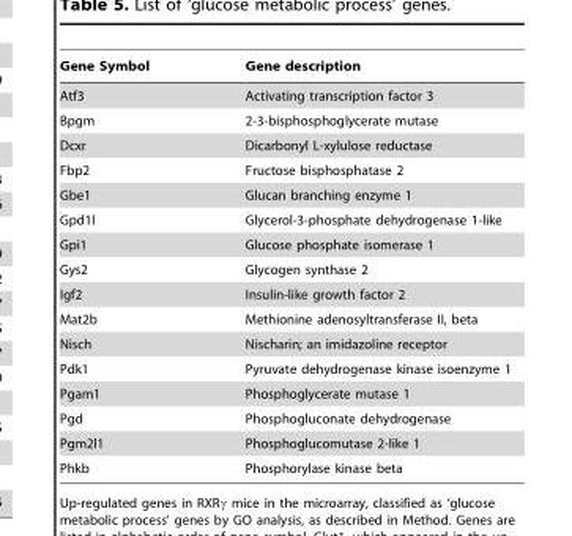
<table><thead><tr><td>Gene Symbol</td><td>Gene description</td></tr></thead><tbody><tr><td>Atf3</td><td>Activating transcription factor 3</td></tr><tr><td>Bpgm</td><td>2-3-bisphosphoglycerate mutase</td></tr><tr><td>Dcxr</td><td>Dicarbonyl L-xylulose reductase</td></tr><tr><td>Fbp2</td><td>Fructose bisphosphatase 2</td></tr><tr><td>Gbe1</td><td>Glucan branching enzyme 1</td></tr><tr><td>Gpd1l</td><td>Glycerol-3-phosphate dehydrogenase 1-like</td></tr><tr><td>Gpi1</td><td>Glucose phosphate isomerase 1</td></tr><tr><td>Gys2</td><td>Glycogen synthase 2</td></tr><tr><td>Igf2</td><td>Insulin-like growth factor 2</td></tr><tr><td>Mat2b</td><td>Methionine adenosyltransferase II, beta</td></tr><tr><td>Nisch</td><td>Nischarin; an imidazoline receptor</td></tr><tr><td>Pdk1</td><td>Pyruvate dehydrogenase kinase isoenzyme 1</td></tr><tr><td>Pgam1</td><td>Phosphoglycerate mutase 1</td></tr><tr><td>Pgd</td><td>Phosphogluconate dehydrogenase</td></tr><tr><td>Pgm2l1</td><td>Phosphoglucomutase 2-like 1</td></tr><tr><td>Phkb</td><td>Phosphorylase kinase beta</td></tr></tbody></table>